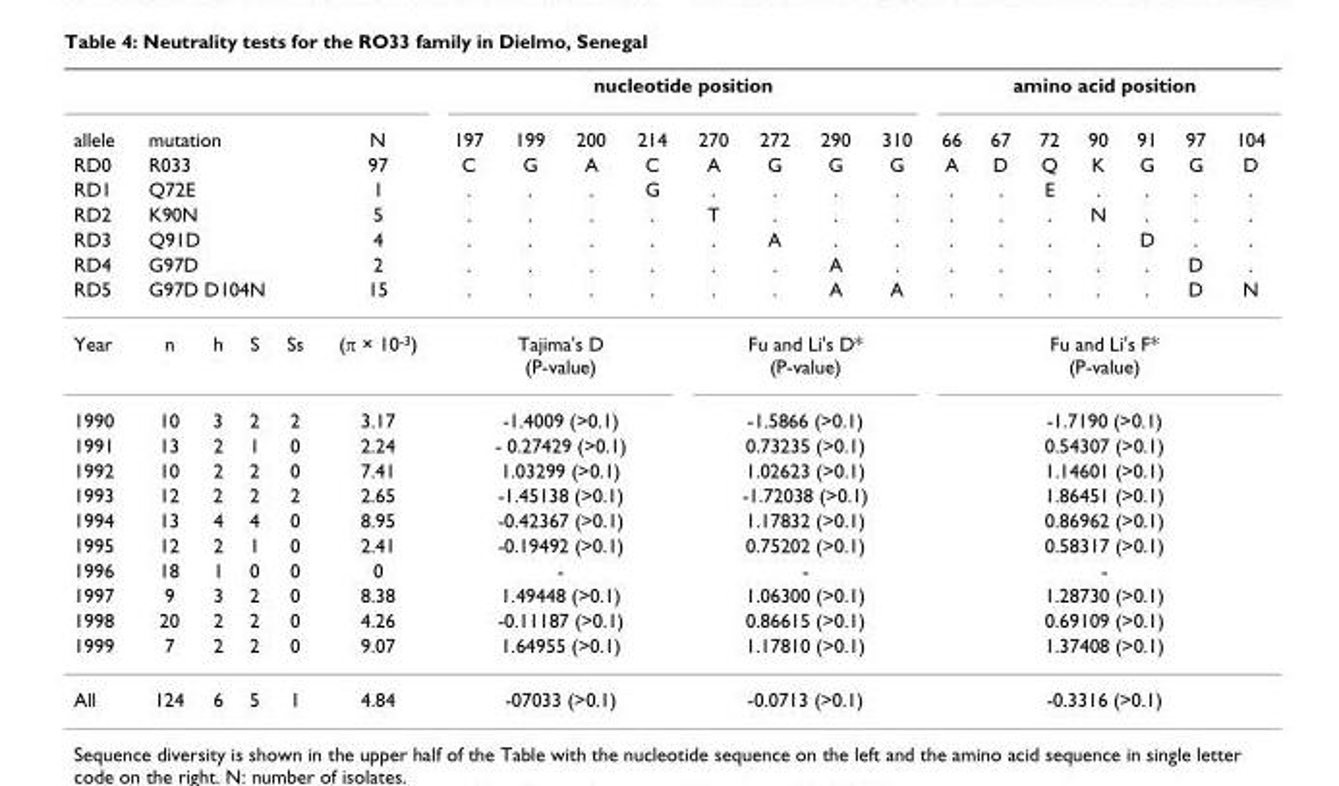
<table><thead><tr><td rowspan="8">allele RD0 RD1 RD2 RD3 RD4 RD5</td><td></td><td></td><td></td><td></td><td rowspan="8">N 97 1 5 4 2 15</td><td colspan="8">nucleotide position</td><td colspan="7">amino acid position</td></tr><tr><td rowspan="7" colspan="4">mutation R033 Q72E K90N Q91D G97D G97D D104N</td><td rowspan="7">197 C . . . . .</td><td rowspan="7">199 G . . . . .</td><td rowspan="7">200 A . . . . .</td><td rowspan="7">214 C G . . . .</td><td rowspan="7">270 A . T . . .</td><td rowspan="7">272 G . . A . .</td><td rowspan="7">290 G . . . A A</td><td rowspan="7">310 G . . . . A</td><td rowspan="7">66 A . . . . .</td><td rowspan="7">67 D . . . . .</td><td rowspan="7">72 Q E . . . .</td><td rowspan="7">90 K . N . . .</td><td rowspan="7">91 G . . D . .</td><td rowspan="7">97 G . . . D D</td><td rowspan="7">104 D . . . . N</td></tr><tr></tr><tr></tr><tr></tr><tr></tr><tr></tr><tr></tr></thead><tbody><tr><td>Year</td><td>n</td><td>h</td><td>S</td><td>Ss</td><td>(π × 10<sup>-3</sup>)</td><td colspan="4">Tajima&#x27;s D (P-value)</td><td colspan="4">Fu and Li&#x27;s D* (P-value)</td><td colspan="7">Fu and Li&#x27;s F* (P-value)</td></tr><tr><td>1990</td><td>10</td><td>3</td><td>2</td><td>2</td><td>3.17</td><td colspan="4">-1.4009 (&gt;0.1)</td><td colspan="4">-1.5866 (&gt;0.1)</td><td colspan="7">-1.7190 (&gt;0.1)</td></tr><tr><td>1991</td><td>13</td><td>2</td><td>1</td><td>0</td><td>2.24</td><td colspan="4">- 0.27429 (&gt;0.1)</td><td colspan="4">0.73235 (&gt;0.1)</td><td colspan="7">0.54307 (&gt;0.1)</td></tr><tr><td>1992</td><td>10</td><td>2</td><td>2</td><td>0</td><td>7.41</td><td colspan="4">1.03299 (&gt;0.1)</td><td colspan="4">1.02623 (&gt;0.1)</td><td colspan="7">1.14601 (&gt;0.1)</td></tr><tr><td>1993</td><td>12</td><td>2</td><td>2</td><td>2</td><td>2.65</td><td colspan="4">-1.45138 (&gt;0.1)</td><td colspan="4">-1.72038 (&gt;0.1)</td><td colspan="7">1.86451 (&gt;0.1)</td></tr><tr><td>1994</td><td>13</td><td>4</td><td>4</td><td>0</td><td>8.95</td><td colspan="4">-0.42367 (&gt;0.1)</td><td colspan="4">1.17832 (&gt;0.1)</td><td colspan="7">0.86962 (&gt;0.1)</td></tr><tr><td>1995</td><td>12</td><td>2</td><td>1</td><td>0</td><td>2.41</td><td colspan="4">-0.19492 (&gt;0.1)</td><td colspan="4">0.75202 (&gt;0.1)</td><td colspan="7">0.58317 (&gt;0.1)</td></tr><tr><td>1996</td><td>18</td><td>1</td><td>0</td><td>0</td><td>0</td><td colspan="4">-</td><td colspan="4">-</td><td colspan="7">-</td></tr><tr><td>1997</td><td>9</td><td>3</td><td>2</td><td>0</td><td>8.38</td><td colspan="4">1.49448 (&gt;0.1)</td><td colspan="4">1.06300 (&gt;0.1)</td><td colspan="7">1.28730 (&gt;0.1)</td></tr><tr><td>1998</td><td>20</td><td>2</td><td>2</td><td>0</td><td>4.26</td><td colspan="4">-0.11187 (&gt;0.1)</td><td colspan="4">0.86615 (&gt;0.1)</td><td colspan="7">0.69109 (&gt;0.1)</td></tr><tr><td>1999</td><td>7</td><td>2</td><td>2</td><td>0</td><td>9.07</td><td colspan="4">1.64955 (&gt;0.1)</td><td colspan="4">1.17810 (&gt;0.1)</td><td colspan="7">1.37408 (&gt;0.1)</td></tr><tr><td>All</td><td>124</td><td>6</td><td>5</td><td>1</td><td>4.84</td><td colspan="4">-07033 (&gt;0.1)</td><td colspan="4">-0.0713 (&gt;0.1)</td><td colspan="7">-0.3316 (&gt;0.1)</td></tr></tbody></table>